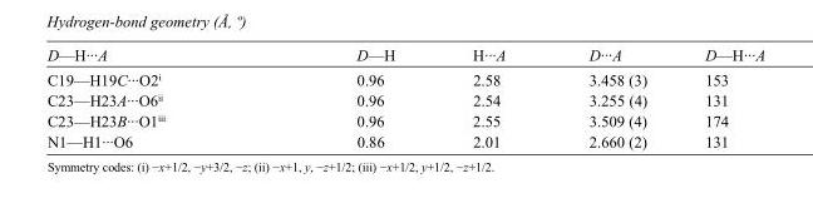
<table><tbody><tr><td>D—H···A</td><td>D—H</td><td>H···A</td><td>D···A</td><td>D—H···A</td></tr><tr><td>C19—H19C···O2<sup>i</sup></td><td>0.96</td><td>2.58</td><td>3.458 (3)</td><td>153</td></tr><tr><td>C23—H23A···O6<sup>ii</sup></td><td>0.96</td><td>2.54</td><td>3.255 (4)</td><td>131</td></tr><tr><td>C23—H23B···O1<sup>iii</sup></td><td>0.96</td><td>2.55</td><td>3.509 (4)</td><td>174</td></tr><tr><td>N1—H1···O6</td><td>0.86</td><td>2.01</td><td>2.660 (2)</td><td>131</td></tr></tbody></table>